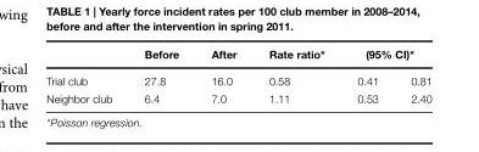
<table><thead><tr><td rowspan="2">Trial club</td><td rowspan="2">Before 27.8</td><td rowspan="2">After 16.0</td><td rowspan="2">Rate ratio∗ 0.58</td><td colspan="2">(95% CI)∗</td></tr><tr><td>0.41</td><td>0.81</td></tr></thead><tbody><tr><td>Neighbor club</td><td>6.4</td><td>7.0</td><td>1.11</td><td>0.53</td><td>2.40</td></tr></tbody></table>